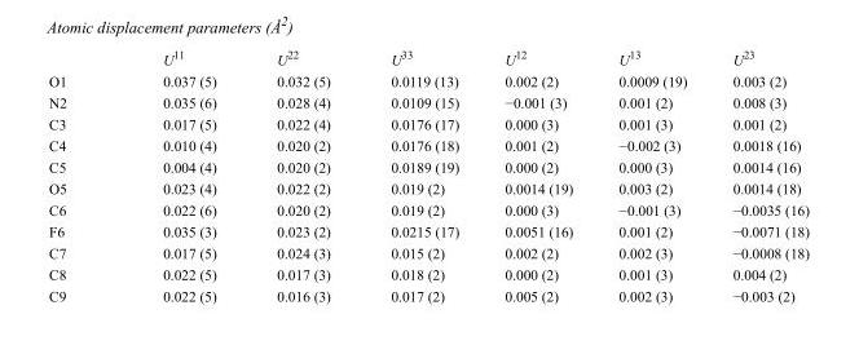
<table><thead><tr><td></td><td>U<sup>11</sup></td><td>U<sup>22</sup></td><td>U<sup>33</sup></td><td>U<sup>12</sup></td><td>U<sup>13</sup></td><td>U<sup>23</sup></td></tr></thead><tbody><tr><td>O1</td><td>0.037 (5)</td><td>0.032 (5)</td><td>0.0119 (13)</td><td>0.002 (2)</td><td>0.0009 (19)</td><td>0.003 (2)</td></tr><tr><td>N2</td><td>0.035 (6)</td><td>0.028 (4)</td><td>0.0109 (15)</td><td>−0.001 (3)</td><td>0.001 (2)</td><td>0.008 (3)</td></tr><tr><td>C3</td><td>0.017 (5)</td><td>0.022 (4)</td><td>0.0176 (17)</td><td>0.000 (3)</td><td>0.001 (3)</td><td>0.001 (2)</td></tr><tr><td>C4</td><td>0.010 (4)</td><td>0.020 (2)</td><td>0.0176 (18)</td><td>0.001 (2)</td><td>−0.002 (3)</td><td>0.0018 (16)</td></tr><tr><td>C5</td><td>0.004 (4)</td><td>0.020 (2)</td><td>0.0189 (19)</td><td>0.000 (2)</td><td>0.000 (3)</td><td>0.0014 (16)</td></tr><tr><td>O5</td><td>0.023 (4)</td><td>0.022 (2)</td><td>0.019 (2)</td><td>0.0014 (19)</td><td>0.003 (2)</td><td>0.0014 (18)</td></tr><tr><td>C6</td><td>0.022 (6)</td><td>0.020 (2)</td><td>0.019 (2)</td><td>0.000 (3)</td><td>−0.001 (3)</td><td>−0.0035 (16)</td></tr><tr><td>F6</td><td>0.035 (3)</td><td>0.023 (2)</td><td>0.0215 (17)</td><td>0.0051 (16)</td><td>0.001 (2)</td><td>−0.0071 (18)</td></tr><tr><td>C7</td><td>0.017 (5)</td><td>0.024 (3)</td><td>0.015 (2)</td><td>0.002 (2)</td><td>0.002 (3)</td><td>−0.0008 (18)</td></tr><tr><td>C8</td><td>0.022 (5)</td><td>0.017 (3)</td><td>0.018 (2)</td><td>0.000 (2)</td><td>0.001 (3)</td><td>0.004 (2)</td></tr><tr><td>C9</td><td>0.022 (5)</td><td>0.016 (3)</td><td>0.017 (2)</td><td>0.005 (2)</td><td>0.002 (3)</td><td>−0.003 (2)</td></tr></tbody></table>